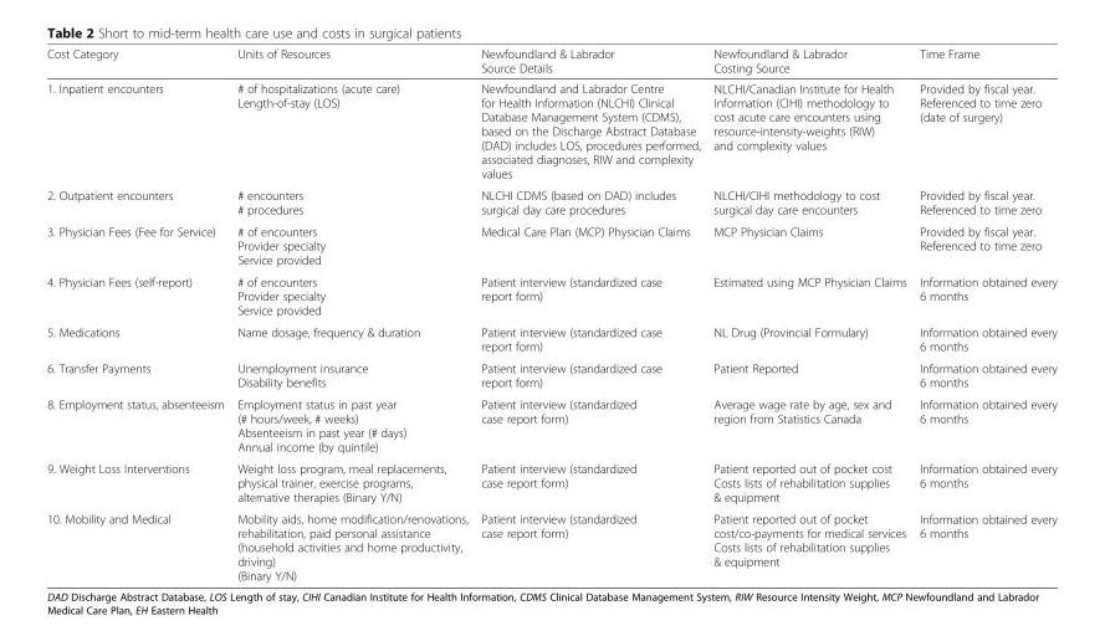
<table><thead><tr><td>Cost Category</td><td>Units of Resources</td><td>Newfoundland &amp; Labrador Source Details</td><td>Newfoundland &amp; Labrador Costing Source</td><td>Time Frame</td></tr></thead><tbody><tr><td>1. Inpatient encounters</td><td># of hospitalizations (acute care) Length-of-stay (LOS)</td><td>Newfoundland and Labrador Centre for Health Information (NLCHI) Clinical Database Management System (CDMS), based on the Discharge Abstract Database (DAD) includes LOS, procedures performed, associated diagnoses, RIW and complexity values</td><td>NLCHI/Canadian Institute for Health Information (CIHI) methodology to cost acute care encounters using resource-intensity-weights (RIW) and complexity values</td><td>Provided by fiscal year. Referenced to time zero (date of surgery)</td></tr><tr><td>2. Outpatient encounters</td><td># encounters # procedures</td><td>NLCHI CDMS (based on DAD) includes surgical day care procedures</td><td>NLCHI/CIHI methodology to cost surgical day care encounters</td><td>Provided by fiscal year. Referenced to time zero</td></tr><tr><td>3. Physician Fees (Fee for Service)</td><td># of encounters Provider specialty Service provided</td><td>Medical Care Plan (MCP) Physician Claims</td><td>MCP Physician Claims</td><td>Provided by fiscal year. Referenced to time zero</td></tr><tr><td>4. Physician Fees (self-report)</td><td># of encounters Provider specialty Service provided</td><td>Patient interview (standardized case report form)</td><td>Estimated using MCP Physician Claims</td><td>Information obtained every 6 months</td></tr><tr><td>5. Medications</td><td>Name dosage, frequency &amp; duration</td><td>Patient interview (standardized case report form)</td><td>NL Drug (Provincial Formulary)</td><td>Information obtained every 6 months</td></tr><tr><td>6. Transfer Payments</td><td>Unemployment insurance Disability benefits</td><td>Patient interview (standardized case report form)</td><td>Patient Reported</td><td>Information obtained every 6 months</td></tr><tr><td>8. Employment status, absenteeism</td><td>Employment status in past year (# hours/week, # weeks) Absenteeism in past year (# days) Annual income (by quintile)</td><td>Patient interview (standardized case report form)</td><td>Average wage rate by age, sex and region from Statistics Canada</td><td>Information obtained every 6 months</td></tr><tr><td>9. Weight Loss Interventions</td><td>Weight loss program, meal replacements, physical trainer, exercise programs, alternative therapies (Binary Y/N)</td><td>Patient interview (standardized case report form)</td><td>Patient reported out of pocket cost Costs lists of rehabilitation supplies &amp; equipment</td><td>Information obtained every 6 months</td></tr><tr><td>10. Mobility and Medical</td><td>Mobility aids, home modification/renovations, rehabilitation, paid personal assistance (household activities and home productivity, driving) (Binary Y/N)</td><td>Patient interview (standardized case report form)</td><td>Patient reported out of pocket cost/co-payments for medical services Costs lists of rehabilitation supplies &amp; equipment</td><td>Information obtained every 6 months</td></tr></tbody></table>